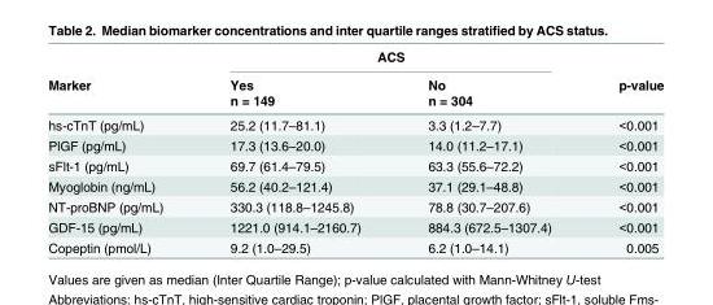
<table><thead><tr><td rowspan="3">Marker</td><td colspan="2">ACS</td><td rowspan="3">p-value</td></tr><tr><td rowspan="2">Yes n = 149</td><td rowspan="2">No n = 304</td></tr><tr></tr></thead><tbody><tr><td>hs-cTnT (pg/mL)</td><td>25.2 (11.7–81.1)</td><td>3.3 (1.2–7.7)</td><td>&lt;0.001</td></tr><tr><td>PlGF (pg/mL)</td><td>17.3 (13.6–20.0)</td><td>14.0 (11.2–17.1)</td><td>&lt;0.001</td></tr><tr><td>sFlt-1 (pg/mL)</td><td>69.7 (61.4–79.5)</td><td>63.3 (55.6–72.2)</td><td>&lt;0.001</td></tr><tr><td>Myoglobin (ng/mL)</td><td>56.2 (40.2–121.4)</td><td>37.1 (29.1–48.8)</td><td>&lt;0.001</td></tr><tr><td>NT-proBNP (pg/mL)</td><td>330.3 (118.8–1245.8)</td><td>78.8 (30.7–207.6)</td><td>&lt;0.001</td></tr><tr><td>GDF-15 (pg/mL)</td><td>1221.0 (914.1–2160.7)</td><td>884.3 (672.5–1307.4)</td><td>&lt;0.001</td></tr><tr><td>Copeptin (pmol/L)</td><td>9.2 (1.0–29.5)</td><td>6.2 (1.0–14.1)</td><td>0.005</td></tr></tbody></table>